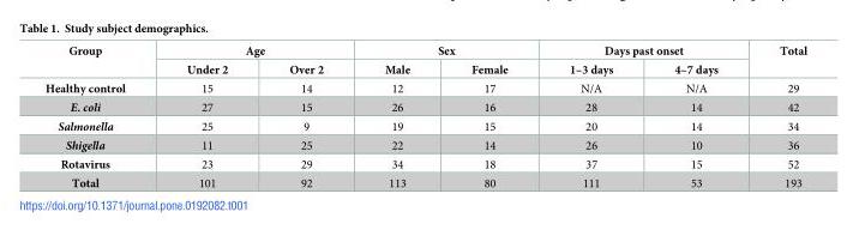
<table><thead><tr><td rowspan="2">Group</td><td colspan="2">Age</td><td colspan="2">Sex</td><td colspan="2">Days past onset</td><td rowspan="2">Total</td></tr><tr><td>Under 2</td><td>Over 2</td><td>Male</td><td>Female</td><td>1–3 days</td><td>4–7 days</td></tr></thead><tbody><tr><td>Healthy control</td><td>15</td><td>14</td><td>12</td><td>17</td><td>N/A</td><td>N/A</td><td>29</td></tr><tr><td>E. coli</td><td>27</td><td>15</td><td>26</td><td>16</td><td>28</td><td>14</td><td>42</td></tr><tr><td>Salmonella</td><td>25</td><td>9</td><td>19</td><td>15</td><td>20</td><td>14</td><td>34</td></tr><tr><td>Shigella</td><td>11</td><td>25</td><td>22</td><td>14</td><td>26</td><td>10</td><td>36</td></tr><tr><td>Rotavirus</td><td>23</td><td>29</td><td>34</td><td>18</td><td>37</td><td>15</td><td>52</td></tr><tr><td>Total</td><td>101</td><td>92</td><td>113</td><td>80</td><td>111</td><td>53</td><td>193</td></tr></tbody></table>